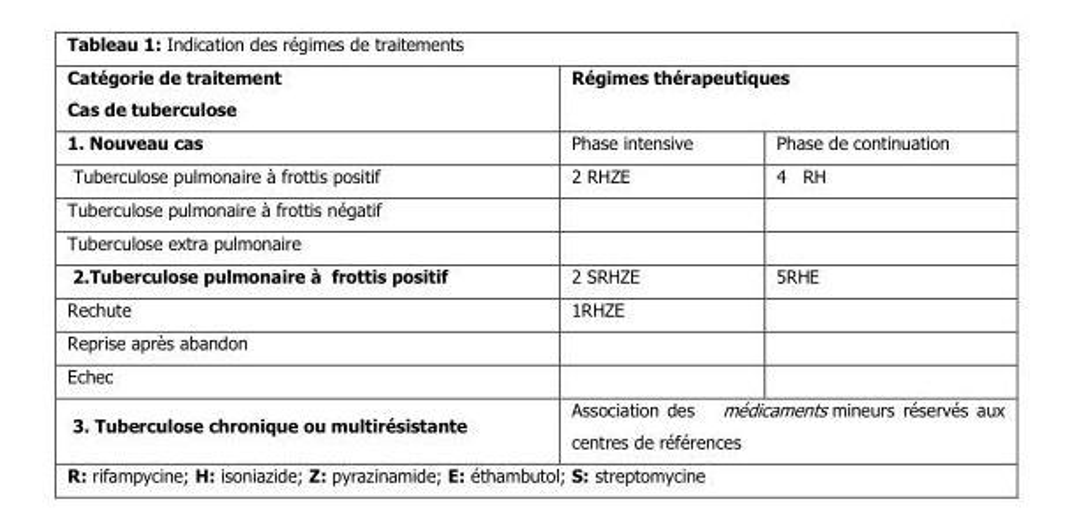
<table><thead><tr><td rowspan="2">Catégorie de traitement Cas de tuberculose 1. Nouveau cas</td><td colspan="2">Régimes thérapeutiques</td></tr><tr><td>Phase intensive</td><td>Phase de continuation</td></tr></thead><tbody><tr><td>Tuberculose pulmonaire à frottis positif</td><td>2 RHZE</td><td>4 RH</td></tr><tr><td colspan="3">Tuberculose pulmonaire à frottis négatif</td></tr><tr><td colspan="3">Tuberculose extra pulmonaire</td></tr><tr><td>2.Tuberculose pulmonaire à frottis positif</td><td>2 SRHZE</td><td>5RHE</td></tr><tr><td>Rechute</td><td>1RHZE</td><td></td></tr><tr><td colspan="3">Reprise après abandon</td></tr><tr><td colspan="3">Echec</td></tr><tr><td>3. Tuberculose chronique ou multirésistante</td><td colspan="2">Association des médicaments mineurs réservés aux centres de références</td></tr></tbody></table>